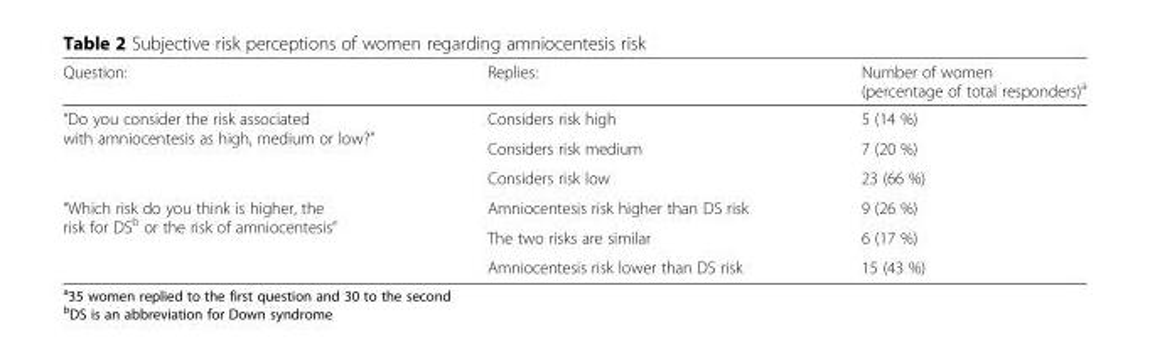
<table><thead><tr><td>Question:</td><td>Replies:</td><td>Number of women (percentage of total responders)<sup>a</sup></td></tr></thead><tbody><tr><td rowspan="3">“Do you consider the risk associated with amniocentesis as high, medium or low?”</td><td>Considers risk high</td><td>5 (14 %)</td></tr><tr><td>Considers risk medium</td><td>7 (20 %)</td></tr><tr><td>Considers risk low</td><td>23 (66 %)</td></tr><tr><td rowspan="3">“Which risk do you think is higher, the risk for DS<sup>b</sup> or the risk of amniocentesis”</td><td>Amniocentesis risk higher than DS risk</td><td>9 (26 %)</td></tr><tr><td>The two risks are similar</td><td>6 (17 %)</td></tr><tr><td>Amniocentesis risk lower than DS risk</td><td>15 (43 %)</td></tr></tbody></table>